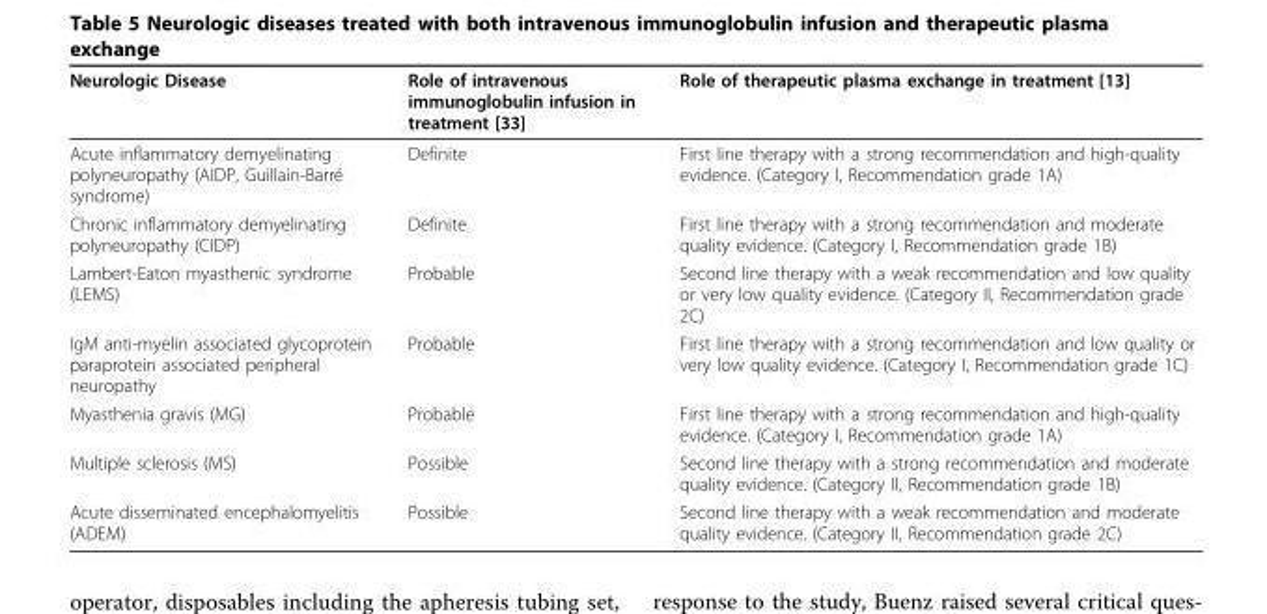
<table><thead><tr><td>Neurologic Disease</td><td>Role of intravenous immunoglobulin infusion in treatment [33]</td><td>Role of therapeutic plasma exchange in treatment [13]</td></tr></thead><tbody><tr><td>Acute inflammatory demyelinating polyneuropathy (AIDP, Guillain-Barré syndrome)</td><td>Definite</td><td>First line therapy with a strong recommendation and high-quality evidence. (Category I, Recommendation grade 1A)</td></tr><tr><td>Chronic inflammatory demyelinating polyneuropathy (CIDP)</td><td>Definite</td><td>First line therapy with a strong recommendation and moderate quality evidence. (Category I, Recommendation grade 1B)</td></tr><tr><td>Lambert-Eaton myasthenic syndrome (LEMS)</td><td>Probable</td><td>Second line therapy with a weak recommendation and low quality or very low quality evidence. (Category II, Recommendation grade 2C)</td></tr><tr><td>IgM anti-myelin associated glycoprotein paraprotein associated peripheral neuropathy</td><td>Probable</td><td>First line therapy with a strong recommendation and low quality or very low quality evidence. (Category I, Recommendation grade 1C)</td></tr><tr><td>Myasthenia gravis (MG)</td><td>Probable</td><td>First line therapy with a strong recommendation and high-quality evidence. (Category I, Recommendation grade 1A)</td></tr><tr><td>Multiple sclerosis (MS)</td><td>Possible</td><td>Second line therapy with a strong recommendation and moderate quality evidence. (Category II, Recommendation grade 1B)</td></tr><tr><td>Acute disseminated encephalomyelitis (ADEM)</td><td>Possible</td><td>Second line therapy with a weak recommendation and moderate quality evidence. (Category II, Recommendation grade 2C)</td></tr></tbody></table>